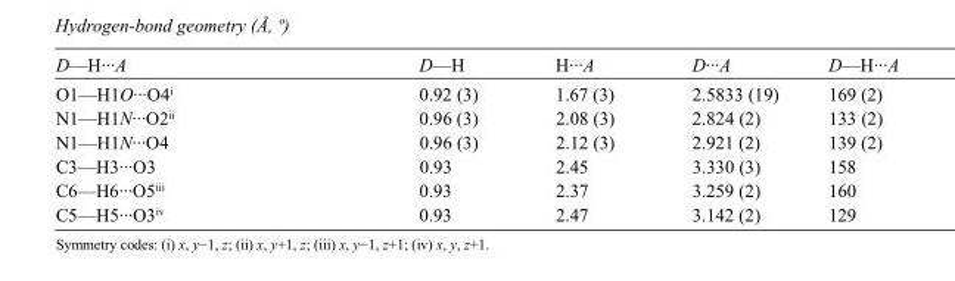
<table><tbody><tr><td>D—H···A</td><td>D—H</td><td>H···A</td><td>D···A</td><td>D—H···A</td></tr><tr><td>O1—H1O···O4<sup>i</sup></td><td>0.92 (3)</td><td>1.67 (3)</td><td>2.5833 (19)</td><td>169 (2)</td></tr><tr><td>N1—H1N···O2<sup>ii</sup></td><td>0.96 (3)</td><td>2.08 (3)</td><td>2.824 (2)</td><td>133 (2)</td></tr><tr><td>N1—H1N···O4</td><td>0.96 (3)</td><td>2.12 (3)</td><td>2.921 (2)</td><td>139 (2)</td></tr><tr><td>C3—H3···O3</td><td>0.93</td><td>2.45</td><td>3.330 (3)</td><td>158</td></tr><tr><td>C6—H6···O5<sup>iii</sup></td><td>0.93</td><td>2.37</td><td>3.259 (2)</td><td>160</td></tr><tr><td>C5—H5···O3<sup>iv</sup></td><td>0.93</td><td>2.47</td><td>3.142 (2)</td><td>129</td></tr></tbody></table>